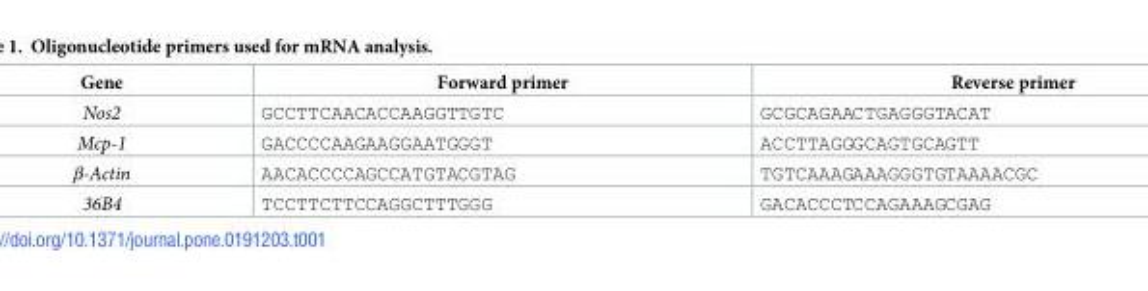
<table><thead><tr><td>Gene</td><td>Forward primer</td><td>Reverse primer</td></tr></thead><tbody><tr><td>Nos2</td><td>GCCTTCAACACCAAGGTTGTC</td><td>GCGCAGAACTGAGGGTACAT</td></tr><tr><td>Mcp-1</td><td>GACCCCAAGAAGGAATGGGT</td><td>ACCTTAGGGCAGTGCAGTT</td></tr><tr><td>β-Actin</td><td>AACACCCCAGCCATGTACGTAG</td><td>TGTCAAAGAAAGGGTGTAAAACGC</td></tr><tr><td>36B4</td><td>TCCTTCTTCCAGGCTTTGGG</td><td>GACACCCTCCAGAAAGCGAG</td></tr></tbody></table>